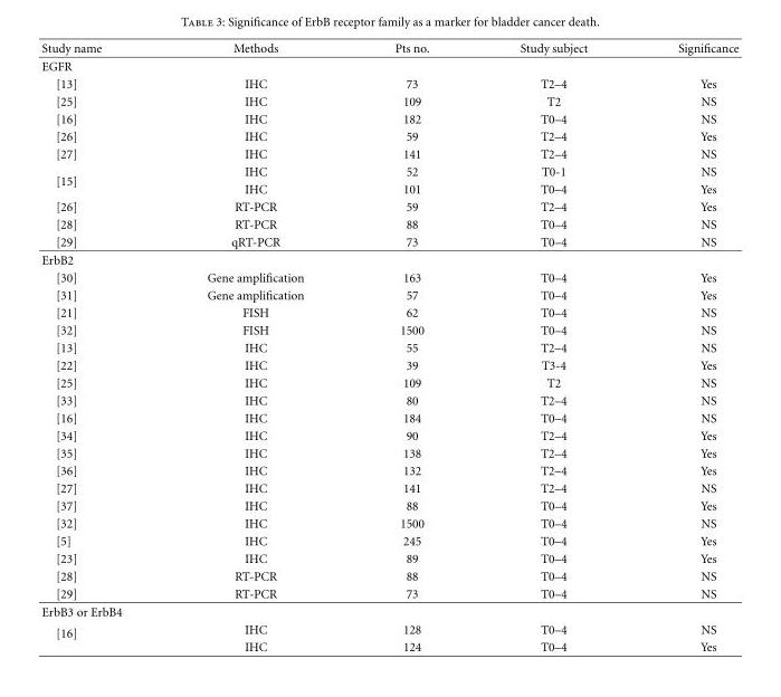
<table><thead><tr><td>Study name</td><td>Methods</td><td>Pts no.</td><td>Study subject</td><td>Significance</td></tr></thead><tbody><tr><td colspan="5">EGFR</td></tr><tr><td>[13]</td><td>IHC</td><td>73</td><td>T2–4</td><td>Yes</td></tr><tr><td>[25]</td><td>IHC</td><td>109</td><td>T2</td><td>NS</td></tr><tr><td>[16]</td><td>IHC</td><td>182</td><td>T0–4</td><td>NS</td></tr><tr><td>[26]</td><td>IHC</td><td>59</td><td>T2–4</td><td>Yes</td></tr><tr><td>[27]</td><td>IHC</td><td>141</td><td>T2–4</td><td>NS</td></tr><tr><td rowspan="2">[15]</td><td>IHC</td><td>52</td><td>T0-1</td><td>NS</td></tr><tr><td>IHC</td><td>101</td><td>T0–4</td><td>Yes</td></tr><tr><td>[26]</td><td>RT-PCR</td><td>59</td><td>T2–4</td><td>Yes</td></tr><tr><td>[28]</td><td>RT-PCR</td><td>88</td><td>T0–4</td><td>NS</td></tr><tr><td>[29]</td><td>qRT-PCR</td><td>73</td><td>T0–4</td><td>NS</td></tr><tr><td colspan="5">ErbB2</td></tr><tr><td>[30]</td><td>Gene amplification</td><td>163</td><td>T0–4</td><td>Yes</td></tr><tr><td>[31]</td><td>Gene amplification</td><td>57</td><td>T0–4</td><td>Yes</td></tr><tr><td>[21]</td><td>FISH</td><td>62</td><td>T0–4</td><td>NS</td></tr><tr><td>[32]</td><td>FISH</td><td>1500</td><td>T0–4</td><td>NS</td></tr><tr><td>[13]</td><td>IHC</td><td>55</td><td>T2–4</td><td>NS</td></tr><tr><td>[22]</td><td>IHC</td><td>39</td><td>T3-4</td><td>Yes</td></tr><tr><td>[25]</td><td>IHC</td><td>109</td><td>T2</td><td>NS</td></tr><tr><td>[33]</td><td>IHC</td><td>80</td><td>T2–4</td><td>NS</td></tr><tr><td>[16]</td><td>IHC</td><td>184</td><td>T0–4</td><td>NS</td></tr><tr><td>[34]</td><td>IHC</td><td>90</td><td>T2–4</td><td>Yes</td></tr><tr><td>[35]</td><td>IHC</td><td>138</td><td>T2–4</td><td>Yes</td></tr><tr><td>[36]</td><td>IHC</td><td>132</td><td>T2–4</td><td>Yes</td></tr><tr><td>[27]</td><td>IHC</td><td>141</td><td>T2–4</td><td>NS</td></tr><tr><td>[37]</td><td>IHC</td><td>88</td><td>T0–4</td><td>Yes</td></tr><tr><td>[32]</td><td>IHC</td><td>1500</td><td>T0–4</td><td>NS</td></tr><tr><td>[5]</td><td>IHC</td><td>245</td><td>T0–4</td><td>Yes</td></tr><tr><td>[23]</td><td>IHC</td><td>89</td><td>T0–4</td><td>Yes</td></tr><tr><td>[28]</td><td>RT-PCR</td><td>88</td><td>T0–4</td><td>NS</td></tr><tr><td>[29]</td><td>RT-PCR</td><td>73</td><td>T0–4</td><td>NS</td></tr><tr><td colspan="5">ErbB3 or ErbB4</td></tr><tr><td rowspan="2">[16]</td><td>IHC</td><td>128</td><td>T0–4</td><td>NS</td></tr><tr><td>IHC</td><td>124</td><td>T0–4</td><td>Yes</td></tr></tbody></table>